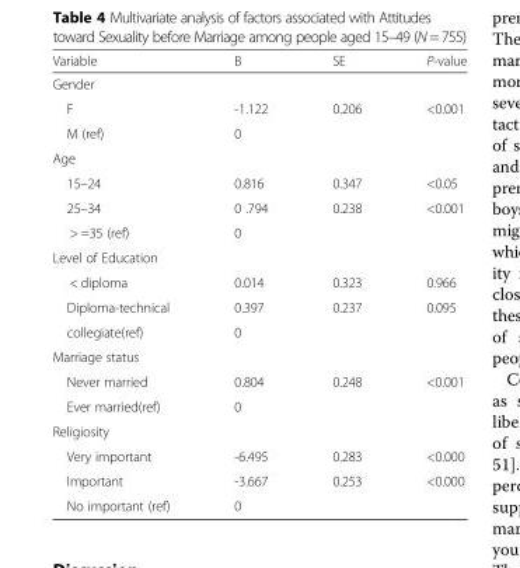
<table><thead><tr><td>Variable</td><td>B</td><td>SE</td><td>P-value</td></tr></thead><tbody><tr><td colspan="4">Gender</td></tr><tr><td>F</td><td>-1.122</td><td>0.206</td><td>&lt;0.001</td></tr><tr><td>M (ref)</td><td>0</td><td></td><td></td></tr><tr><td colspan="4">Age</td></tr><tr><td>15–24</td><td>0.816</td><td>0.347</td><td>&lt;0.05</td></tr><tr><td>25–34</td><td>0 .794</td><td>0.238</td><td>&lt;0.001</td></tr><tr><td>&gt; =35 (ref)</td><td>0</td><td></td><td></td></tr><tr><td colspan="4">Level of Education</td></tr><tr><td>&lt; diploma</td><td>0.014</td><td>0.323</td><td>0.966</td></tr><tr><td>Diploma-technical</td><td>0.397</td><td>0.237</td><td>0.095</td></tr><tr><td>collegiate(ref)</td><td>0</td><td></td><td></td></tr><tr><td colspan="4">Marriage status</td></tr><tr><td>Never married</td><td>0.804</td><td>0.248</td><td>&lt;0.001</td></tr><tr><td>Ever married(ref)</td><td>0</td><td></td><td></td></tr><tr><td colspan="4">Religiosity</td></tr><tr><td>Very important</td><td>-6.495</td><td>0.283</td><td>&lt;0.000</td></tr><tr><td>Important</td><td>-3.667</td><td>0.253</td><td>&lt;0.000</td></tr><tr><td>No important (ref)</td><td>0</td><td></td><td></td></tr></tbody></table>